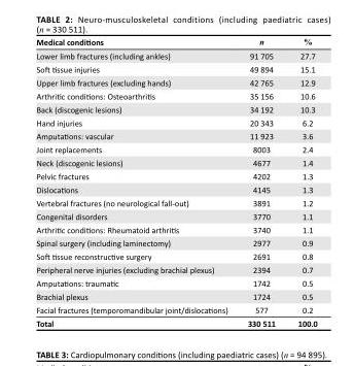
<table><thead><tr><td>Medical conditions</td><td>n</td><td>%</td></tr></thead><tbody><tr><td>Lower limb fractures (including ankles)</td><td>91 705</td><td>27.7</td></tr><tr><td>Soft tissue injuries</td><td>49 894</td><td>15.1</td></tr><tr><td>Upper limb fractures (excluding hands)</td><td>42 765</td><td>12.9</td></tr><tr><td>Arthritic conditions: Osteoarthritis</td><td>35 156</td><td>10.6</td></tr><tr><td>Back (discogenic lesions)</td><td>34 192</td><td>10.3</td></tr><tr><td>Hand injuries</td><td>20 343</td><td>6.2</td></tr><tr><td>Amputations: vascular</td><td>11 923</td><td>3.6</td></tr><tr><td>Joint replacements</td><td>8003</td><td>2.4</td></tr><tr><td>Neck (discogenic lesions)</td><td>4677</td><td>1.4</td></tr><tr><td>Pelvic fractures</td><td>4202</td><td>1.3</td></tr><tr><td>Dislocations</td><td>4145</td><td>1.3</td></tr><tr><td>Vertebral fractures (no neurological fall-out)</td><td>3891</td><td>1.2</td></tr><tr><td>Congenital disorders</td><td>3770</td><td>1.1</td></tr><tr><td>Arthritic conditions: Rheumatoid arthritis</td><td>3740</td><td>1.1</td></tr><tr><td>Spinal surgery (including laminectomy)</td><td>2977</td><td>0.9</td></tr><tr><td>Soft tissue reconstructive surgery</td><td>2691</td><td>0.8</td></tr><tr><td>Peripheral nerve injuries (excluding brachial plexus)</td><td>2394</td><td>0.7</td></tr><tr><td>Amputations: traumatic</td><td>1742</td><td>0.5</td></tr><tr><td>Brachial plexus</td><td>1724</td><td>0.5</td></tr><tr><td>Facial fractures (temporomandibular joint/dislocations)</td><td>577</td><td>0.2</td></tr><tr><td>Total</td><td>330 511</td><td>100.0</td></tr></tbody></table>